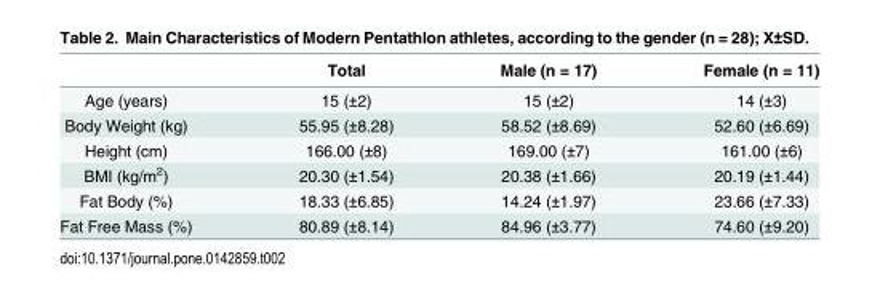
<table><thead><tr><td></td><td>Total</td><td>Male (n = 17)</td><td>Female (n = 11)</td></tr></thead><tbody><tr><td>Age (years)</td><td>15 (±2)</td><td>15 (±2)</td><td>14 (±3)</td></tr><tr><td>Body Weight (kg)</td><td>55.95 (±8.28)</td><td>58.52 (±8.69)</td><td>52.60 (±6.69)</td></tr><tr><td>Height (cm)</td><td>166.00 (±8)</td><td>169.00 (±7)</td><td>161.00 (±6)</td></tr><tr><td>BMI (kg/m<sup>2</sup>)</td><td>20.30 (±1.54)</td><td>20.38 (±1.66)</td><td>20.19 (±1.44)</td></tr><tr><td>Fat Body (%)</td><td>18.33 (±6.85)</td><td>14.24 (±1.97)</td><td>23.66 (±7.33)</td></tr><tr><td>Fat Free Mass (%)</td><td>80.89 (±8.14)</td><td>84.96 (±3.77)</td><td>74.60 (±9.20)</td></tr></tbody></table>